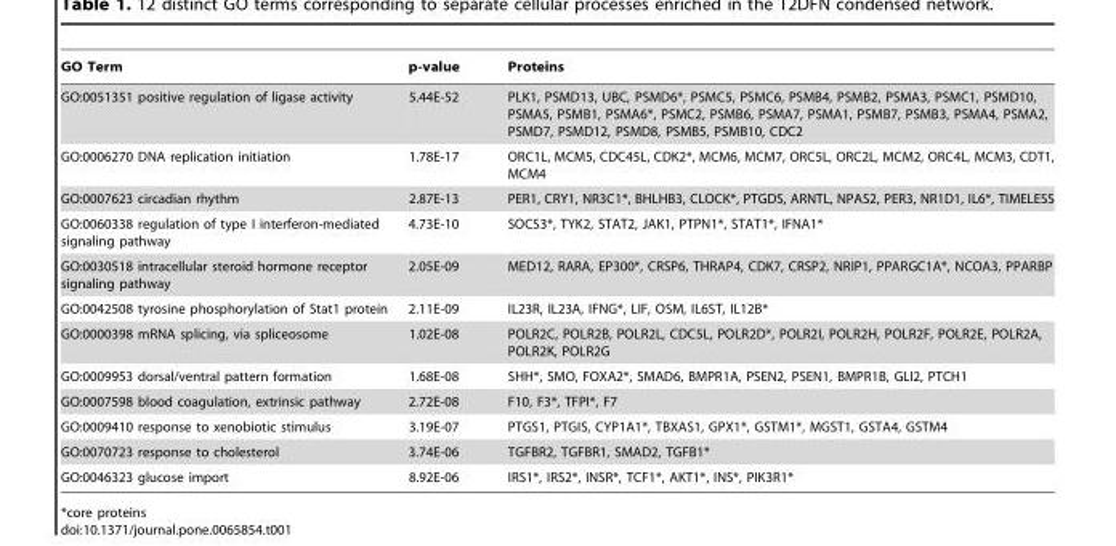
<table><thead><tr><td>GO Term</td><td>p-value</td><td>Proteins</td></tr></thead><tbody><tr><td>GO:0051351 positive regulation of ligase activity</td><td>5.44E-52</td><td>PLK1, PSMD13, UBC, PSMD6*, PSMC5, PSMC6, PSMB4, PSMB2, PSMA3, PSMC1, PSMD10, PSMA5, PSMB1, PSMA6*, PSMC2, PSMB6, PSMA7, PSMA1, PSMB7, PSMB3, PSMA4, PSMA2, PSMD7, PSMD12, PSMD8, PSMB5, PSMB10, CDC2</td></tr><tr><td>GO:0006270 DNA replication initiation</td><td>1.78E-17</td><td>ORC1L, MCM5, CDC45L, CDK2*, MCM6, MCM7, ORC5L, ORC2L, MCM2, ORC4L, MCM3, CDT1, MCM4</td></tr><tr><td>GO:0007623 circadian rhythm</td><td>2.87E-13</td><td>PER1, CRY1, NR3C1*, BHLHB3, CLOCK*, PTGDS, ARNTL, NPAS2, PER3, NR1D1, IL6*, TIMELESS</td></tr><tr><td>GO:0060338 regulation of type I interferon-mediated signaling pathway</td><td>4.73E-10</td><td>SOCS3*, TYK2, STAT2, JAK1, PTPN1*, STAT1*, IFNA1*</td></tr><tr><td>GO:0030518 intracellular steroid hormone receptor signaling pathway</td><td>2.05E-09</td><td>MED12, RARA, EP300*, CRSP6, THRAP4, CDK7, CRSP2, NRIP1, PPARGC1A*, NCOA3, PPARBP</td></tr><tr><td>GO:0042508 tyrosine phosphorylation of Stat1 protein</td><td>2.11E-09</td><td>IL23R, IL23A, IFNG*, LIF, OSM, IL6ST, IL12B*</td></tr><tr><td>GO:0000398 mRNA splicing, via spliceosome</td><td>1.02E-08</td><td>POLR2C, POLR2B, POLR2L, CDC5L, POLR2D*, POLR2I, POLR2H, POLR2F, POLR2E, POLR2A, POLR2K, POLR2G</td></tr><tr><td>GO:0009953 dorsal/ventral pattern formation</td><td>1.68E-08</td><td>SHH*, SMO, FOXA2*, SMAD6, BMPR1A, PSEN2, PSEN1, BMPR1B, GLI2, PTCH1</td></tr><tr><td>GO:0007598 blood coagulation, extrinsic pathway</td><td>2.72E-08</td><td>F10, F3*, TFPI*, F7</td></tr><tr><td>GO:0009410 response to xenobiotic stimulus</td><td>3.19E-07</td><td>PTGS1, PTGIS, CYP1A1*, TBXAS1, GPX1*, GSTM1*, MGST1, GSTA4, GSTM4</td></tr><tr><td>GO:0070723 response to cholesterol</td><td>3.74E-06</td><td>TGFBR2, TGFBR1, SMAD2, TGFB1*</td></tr><tr><td>GO:0046323 glucose import</td><td>8.92E-06</td><td>IRS1*, IRS2*, INSR*, TCF1*, AKT1*, INS*, PIK3R1*</td></tr></tbody></table>